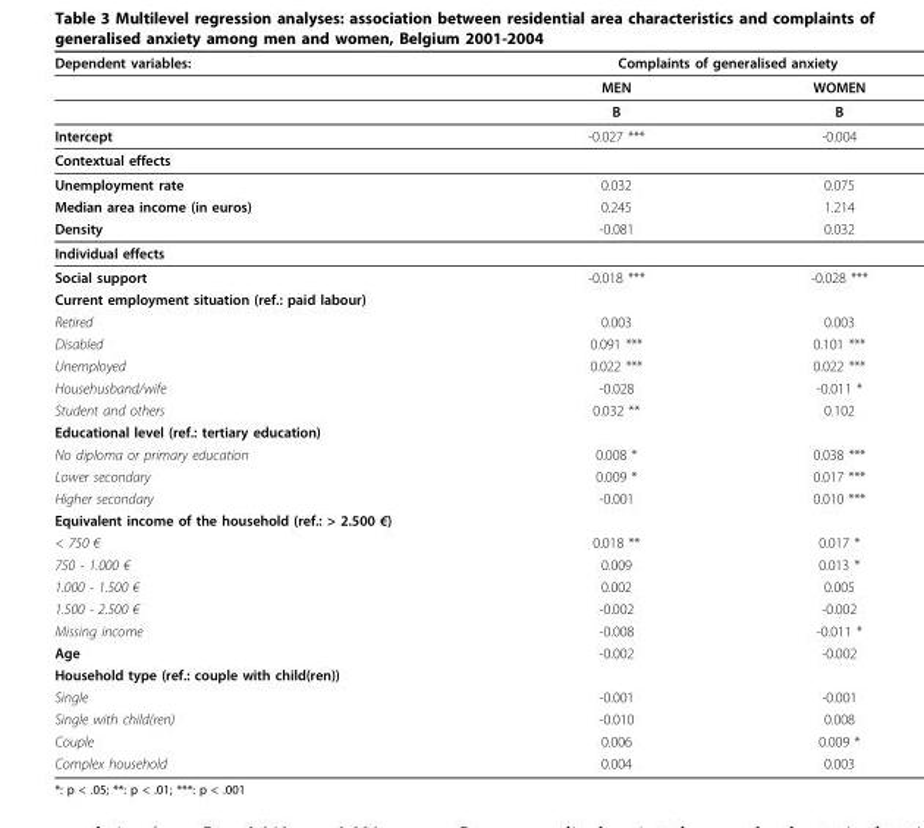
<table><thead><tr><td rowspan="2">Dependent variables:</td><td colspan="2">Complaints of generalised anxiety</td></tr><tr><td>MEN</td><td>WOMEN</td></tr></thead><tbody><tr><td></td><td>B</td><td>B</td></tr><tr><td>Intercept</td><td>-0.027 ***</td><td>-0.004</td></tr><tr><td colspan="3">Contextual effects</td></tr><tr><td>Unemployment rate</td><td>0.032</td><td>0.075</td></tr><tr><td>Median area income (in euros)</td><td>0.245</td><td>1.214</td></tr><tr><td>Density</td><td>-0.081</td><td>0.032</td></tr><tr><td colspan="3">Individual effects</td></tr><tr><td>Social support</td><td>-0.018 ***</td><td>-0.028 ***</td></tr><tr><td colspan="3">Current employment situation (ref.: paid labour)</td></tr><tr><td>Retired</td><td>0.003</td><td>0.003</td></tr><tr><td>Disabled</td><td>0.091 ***</td><td>0.101 ***</td></tr><tr><td>Unemployed</td><td>0.022 ***</td><td>0.022 ***</td></tr><tr><td>Househusband/wife</td><td>-0.028</td><td>-0.011 *</td></tr><tr><td>Student and others</td><td>0.032 **</td><td>0.102</td></tr><tr><td colspan="3">Educational level (ref.: tertiary education)</td></tr><tr><td>No diploma or primary education</td><td>0.008 *</td><td>0.038 ***</td></tr><tr><td>Lower secondary</td><td>0.009 *</td><td>0.017 ***</td></tr><tr><td>Higher secondary</td><td>-0.001</td><td>0.010 ***</td></tr><tr><td colspan="3">Equivalent income of the household (ref.: &gt; 2.500 €)</td></tr><tr><td>&lt; 750 €</td><td>0.018 **</td><td>0.017 *</td></tr><tr><td>750 - 1.000 €</td><td>0.009</td><td>0.013 *</td></tr><tr><td>1.000 - 1.500 €</td><td>0.002</td><td>0.005</td></tr><tr><td>1.500 - 2.500 €</td><td>-0.002</td><td>-0.002</td></tr><tr><td>Missing income</td><td>-0.008</td><td>-0.011 *</td></tr><tr><td>Age</td><td>-0.002</td><td>-0.002</td></tr><tr><td colspan="3">Household type (ref.: couple with child(ren))</td></tr><tr><td>Single</td><td>-0.001</td><td>-0.001</td></tr><tr><td>Single with child(ren)</td><td>-0.010</td><td>0.008</td></tr><tr><td>Couple</td><td>0.006</td><td>0.009 *</td></tr><tr><td>Complex household</td><td>0.004</td><td>0.003</td></tr></tbody></table>